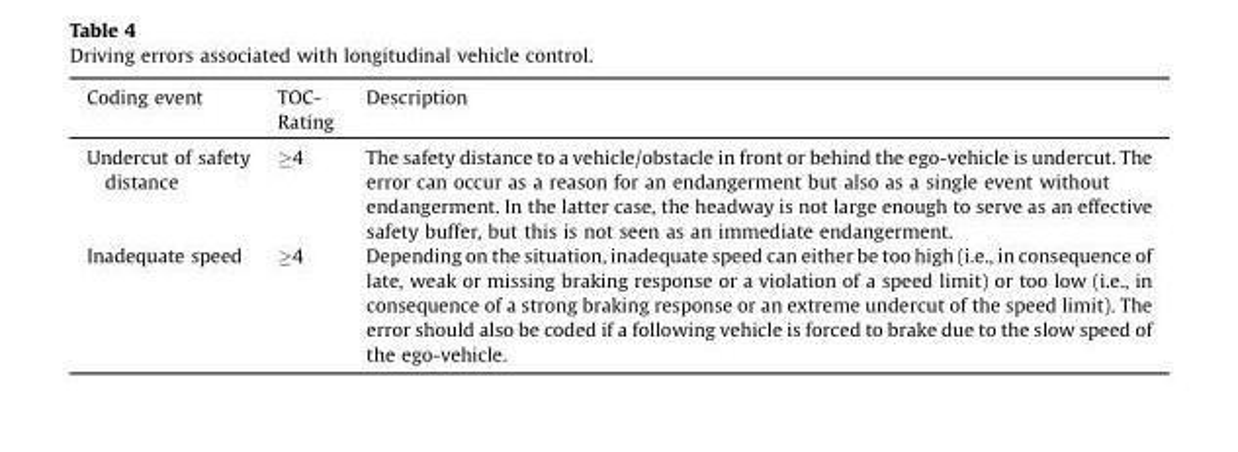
<table><thead><tr><td>Coding event</td><td>TOC- Rating</td><td>Description</td></tr></thead><tbody><tr><td>Undercut of safety distance</td><td>≥4</td><td>The safety distance to a vehicle/obstacle in front or behind the ego-vehicle is undercut. The error can occur as a reason for an endangerment but also as a single event without endangerment. In the latter case, the headway is not large enough to serve as an effective safety buffer, but this is not seen as an immediate endangerment.</td></tr><tr><td>Inadequate speed</td><td>≥4</td><td>Depending on the situation, inadequate speed can either be too high (i.e., in consequence of late, weak or missing braking response or a violation of a speed limit) or too low (i.e., in consequence of a strong braking response or an extreme undercut of the speed limit). The error should also be coded if a following vehicle is forced to brake due to the slow speed of the ego-vehicle.</td></tr></tbody></table>